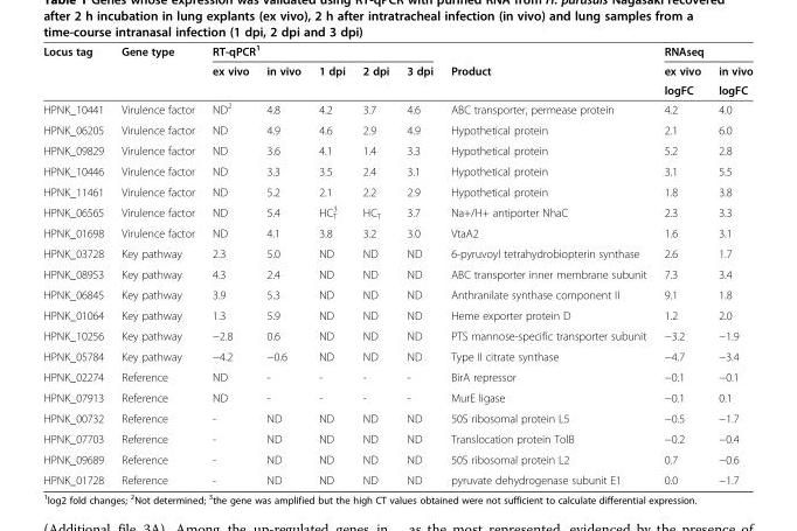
<table><thead><tr><td rowspan="3">Locus tag</td><td rowspan="3">Gene type</td><td colspan="5">RT-qPCR<sup>1</sup></td><td rowspan="3">Product</td><td colspan="2">RNAseq</td></tr><tr><td rowspan="2">ex vivo</td><td rowspan="2">in vivo</td><td rowspan="2">1 dpi</td><td rowspan="2">2 dpi</td><td rowspan="2">3 dpi</td><td rowspan="2">ex vivo logFC</td><td rowspan="2">in vivo logFC</td></tr><tr></tr></thead><tbody><tr><td>HPNK_10441</td><td>Virulence factor</td><td>ND<sup>2</sup></td><td>4.8</td><td>4.2</td><td>3.7</td><td>4.6</td><td>ABC transporter, permease protein</td><td>4.2</td><td>4.0</td></tr><tr><td>HPNK_06205</td><td>Virulence factor</td><td>ND</td><td>4.9</td><td>4.6</td><td>2.9</td><td>4.9</td><td>Hypothetical protein</td><td>2.1</td><td>6.0</td></tr><tr><td>HPNK_09829</td><td>Virulence factor</td><td>ND</td><td>3.6</td><td>4.1</td><td>1.4</td><td>3.3</td><td>Hypothetical protein</td><td>5.2</td><td>2.8</td></tr><tr><td>HPNK_10446</td><td>Virulence factor</td><td>ND</td><td>3.3</td><td>3.5</td><td>2.4</td><td>3.1</td><td>Hypothetical protein</td><td>3.1</td><td>5.5</td></tr><tr><td>HPNK_11461</td><td>Virulence factor</td><td>ND</td><td>5.2</td><td>2.1</td><td>2.2</td><td>2.9</td><td>Hypothetical protein</td><td>1.8</td><td>3.8</td></tr><tr><td>HPNK_06565</td><td>Virulence factor</td><td>ND</td><td>5.4</td><td>HC<sub>T</sub> <sup>3</sup></td><td>HC<sub>T</sub></td><td>3.7</td><td>Na+/H+ antiporter NhaC</td><td>2.3</td><td>3.3</td></tr><tr><td>HPNK_01698</td><td>Virulence factor</td><td>ND</td><td>4.1</td><td>3.8</td><td>3.2</td><td>3.0</td><td>VtaA2</td><td>1.6</td><td>3.1</td></tr><tr><td>HPNK_03728</td><td>Key pathway</td><td>2.3</td><td>5.0</td><td>ND</td><td>ND</td><td>ND</td><td>6-pyruvoyl tetrahydrobiopterin synthase</td><td>2.6</td><td>1.7</td></tr><tr><td>HPNK_08953</td><td>Key pathway</td><td>4.3</td><td>2.4</td><td>ND</td><td>ND</td><td>ND</td><td>ABC transporter inner membrane subunit</td><td>7.3</td><td>3.4</td></tr><tr><td>HPNK_06845</td><td>Key pathway</td><td>3.9</td><td>5.3</td><td>ND</td><td>ND</td><td>ND</td><td>Anthranilate synthase component II</td><td>9.1</td><td>1.8</td></tr><tr><td>HPNK_01064</td><td>Key pathway</td><td>1.3</td><td>5.9</td><td>ND</td><td>ND</td><td>ND</td><td>Heme exporter protein D</td><td>1.2</td><td>2.0</td></tr><tr><td>HPNK_10256</td><td>Key pathway</td><td>−2.8</td><td>0.6</td><td>ND</td><td>ND</td><td>ND</td><td>PTS mannose-specific transporter subunit</td><td>−3.2</td><td>−1.9</td></tr><tr><td>HPNK_05784</td><td>Key pathway</td><td>−4.2</td><td>−0.6</td><td>ND</td><td>ND</td><td>ND</td><td>Type II citrate synthase</td><td>−4.7</td><td>−3.4</td></tr><tr><td>HPNK_02274</td><td>Reference</td><td>ND</td><td>-</td><td>-</td><td>-</td><td>-</td><td>BirA repressor</td><td>−0.1</td><td>−0.1</td></tr><tr><td>HPNK_07913</td><td>Reference</td><td>ND</td><td>-</td><td>-</td><td>-</td><td>-</td><td>MurE ligase</td><td>−0.1</td><td>0.1</td></tr><tr><td>HPNK_00732</td><td>Reference</td><td>-</td><td>ND</td><td>ND</td><td>ND</td><td>ND</td><td>50S ribosomal protein L5</td><td>−0.5</td><td>−1.7</td></tr><tr><td>HPNK_07703</td><td>Reference</td><td>-</td><td>ND</td><td>ND</td><td>ND</td><td>ND</td><td>Translocation protein TolB</td><td>−0.2</td><td>−0.4</td></tr><tr><td>HPNK_09689</td><td>Reference</td><td>-</td><td>ND</td><td>ND</td><td>ND</td><td>ND</td><td>50S ribosomal protein L2</td><td>0.7</td><td>−0.6</td></tr><tr><td>HPNK_01728</td><td>Reference</td><td>-</td><td>ND</td><td>ND</td><td>ND</td><td>ND</td><td>pyruvate dehydrogenase subunit E1</td><td>0.0</td><td>−1.7</td></tr></tbody></table>